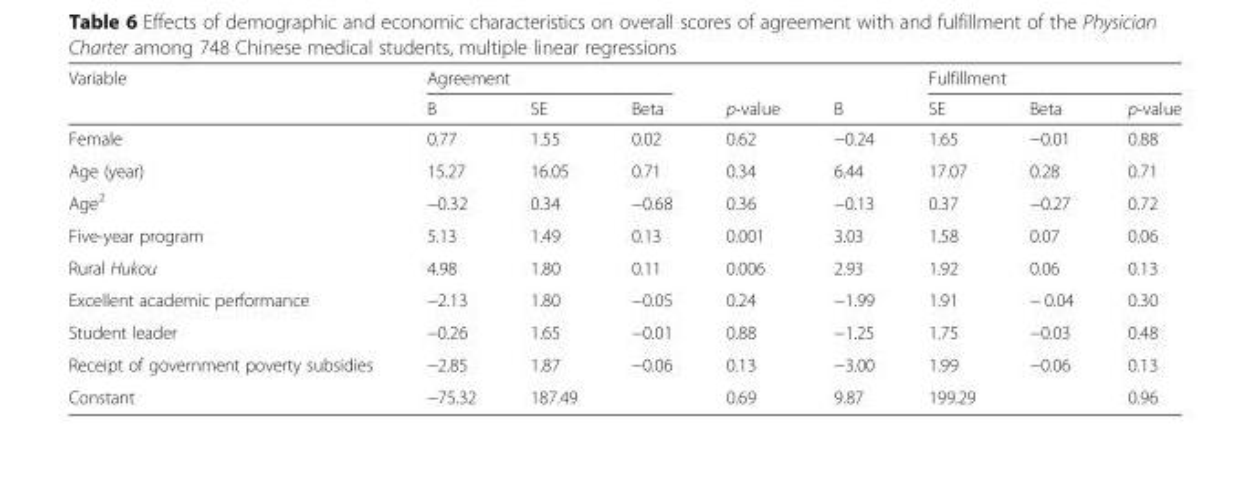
<table><thead><tr><td rowspan="2">Variable</td><td colspan="3">Agreement</td><td rowspan="2">p-value</td><td rowspan="2">B</td><td colspan="3">Fulfillment</td></tr><tr><td>B</td><td>SE</td><td>Beta</td><td>SE</td><td>Beta</td><td>p-value</td></tr></thead><tbody><tr><td>Female</td><td>0.77</td><td>1.55</td><td>0.02</td><td>0.62</td><td>−0.24</td><td>1.65</td><td>−0.01</td><td>0.88</td></tr><tr><td>Age (year)</td><td>15.27</td><td>16.05</td><td>0.71</td><td>0.34</td><td>6.44</td><td>17.07</td><td>0.28</td><td>0.71</td></tr><tr><td>Age<sup>2</sup></td><td>−0.32</td><td>0.34</td><td>−0.68</td><td>0.36</td><td>−0.13</td><td>0.37</td><td>−0.27</td><td>0.72</td></tr><tr><td>Five-year program</td><td>5.13</td><td>1.49</td><td>0.13</td><td>0.001</td><td>3.03</td><td>1.58</td><td>0.07</td><td>0.06</td></tr><tr><td>Rural Hukou</td><td>4.98</td><td>1.80</td><td>0.11</td><td>0.006</td><td>2.93</td><td>1.92</td><td>0.06</td><td>0.13</td></tr><tr><td>Excellent academic performance</td><td>−2.13</td><td>1.80</td><td>−0.05</td><td>0.24</td><td>−1.99</td><td>1.91</td><td>− 0.04</td><td>0.30</td></tr><tr><td>Student leader</td><td>−0.26</td><td>1.65</td><td>−0.01</td><td>0.88</td><td>−1.25</td><td>1.75</td><td>−0.03</td><td>0.48</td></tr><tr><td>Receipt of government poverty subsidies</td><td>−2.85</td><td>1.87</td><td>−0.06</td><td>0.13</td><td>−3.00</td><td>1.99</td><td>−0.06</td><td>0.13</td></tr><tr><td>Constant</td><td>−75.32</td><td>187.49</td><td></td><td>0.69</td><td>9.87</td><td>199.29</td><td></td><td>0.96</td></tr></tbody></table>